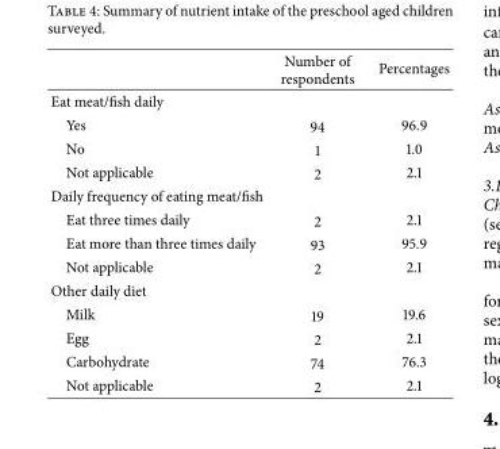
<table><thead><tr><td></td><td>Number of respondents</td><td>Percentages</td></tr></thead><tbody><tr><td colspan="3">Eat meat/fish daily</td></tr><tr><td>Yes</td><td>94</td><td>96.9</td></tr><tr><td>No</td><td>1</td><td>1.0</td></tr><tr><td>Not applicable</td><td>2</td><td>2.1</td></tr><tr><td colspan="3">Daily frequency of eating meat/fish</td></tr><tr><td>Eat three times daily</td><td>2</td><td>2.1</td></tr><tr><td>Eat more than three times daily</td><td>93</td><td>95.9</td></tr><tr><td>Not applicable</td><td>2</td><td>2.1</td></tr><tr><td colspan="3">Other daily diet</td></tr><tr><td>Milk</td><td>19</td><td>19.6</td></tr><tr><td>Egg</td><td>2</td><td>2.1</td></tr><tr><td>Carbohydrate</td><td>74</td><td>76.3</td></tr><tr><td>Not applicable</td><td>2</td><td>2.1</td></tr></tbody></table>